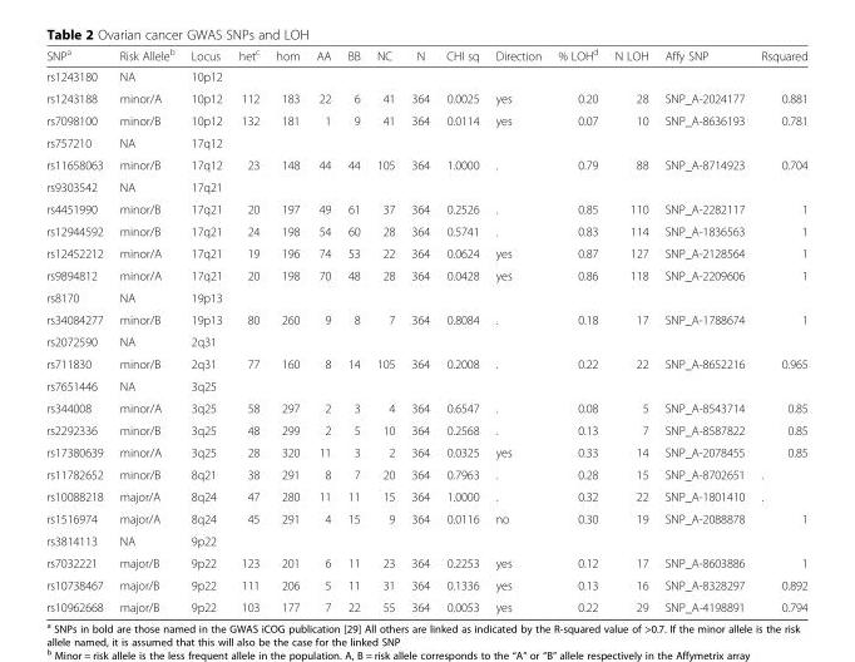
<table><thead><tr><td>SNP<sup>a</sup></td><td>Risk Allele<sup>b</sup></td><td>Locus</td><td>het<sup>c</sup></td><td>hom</td><td>AA</td><td>BB</td><td>NC</td><td>N</td><td>CHI sq</td><td>Direction</td><td>% LOH<sup>d</sup></td><td>N LOH</td><td>Affy SNP</td><td>Rsquared</td></tr></thead><tbody><tr><td>rs1243180</td><td>NA</td><td>10p12</td><td></td><td></td><td></td><td></td><td></td><td></td><td></td><td></td><td></td><td></td><td></td><td></td></tr><tr><td>rs1243188</td><td>minor/A</td><td>10p12</td><td>112</td><td>183</td><td>22</td><td>6</td><td>41</td><td>364</td><td>0.0025</td><td>yes</td><td>0.20</td><td>28</td><td>SNP_A-2024177</td><td>0.881</td></tr><tr><td>rs7098100</td><td>minor/B</td><td>10p12</td><td>132</td><td>181</td><td>1</td><td>9</td><td>41</td><td>364</td><td>0.0114</td><td>yes</td><td>0.07</td><td>10</td><td>SNP_A-8636193</td><td>0.781</td></tr><tr><td>rs757210</td><td>NA</td><td>17q12</td><td></td><td></td><td></td><td></td><td></td><td></td><td></td><td></td><td></td><td></td><td></td><td></td></tr><tr><td>rs11658063</td><td>minor/B</td><td>17q12</td><td>23</td><td>148</td><td>44</td><td>44</td><td>105</td><td>364</td><td>1.0000</td><td>.</td><td>0.79</td><td>88</td><td>SNP_A-8714923</td><td>0.704</td></tr><tr><td>rs9303542</td><td>NA</td><td>17q21</td><td></td><td></td><td></td><td></td><td></td><td></td><td></td><td></td><td></td><td></td><td></td><td></td></tr><tr><td>rs4451990</td><td>minor/B</td><td>17q21</td><td>20</td><td>197</td><td>49</td><td>61</td><td>37</td><td>364</td><td>0.2526</td><td>.</td><td>0.85</td><td>110</td><td>SNP_A-2282117</td><td>1</td></tr><tr><td>rs12944592</td><td>minor/B</td><td>17q21</td><td>24</td><td>198</td><td>54</td><td>60</td><td>28</td><td>364</td><td>0.5741</td><td>.</td><td>0.83</td><td>114</td><td>SNP_A-1836563</td><td>1</td></tr><tr><td>rs12452212</td><td>minor/A</td><td>17q21</td><td>19</td><td>196</td><td>74</td><td>53</td><td>22</td><td>364</td><td>0.0624</td><td>yes</td><td>0.87</td><td>127</td><td>SNP_A-2128564</td><td>1</td></tr><tr><td>rs9894812</td><td>minor/A</td><td>17q21</td><td>20</td><td>198</td><td>70</td><td>48</td><td>28</td><td>364</td><td>0.0428</td><td>yes</td><td>0.86</td><td>118</td><td>SNP_A-2209606</td><td>1</td></tr><tr><td>rs8170</td><td>NA</td><td>19p13</td><td></td><td></td><td></td><td></td><td></td><td></td><td></td><td></td><td></td><td></td><td></td><td></td></tr><tr><td>rs34084277</td><td>minor/B</td><td>19p13</td><td>80</td><td>260</td><td>9</td><td>8</td><td>7</td><td>364</td><td>0.8084</td><td>.</td><td>0.18</td><td>17</td><td>SNP_A-1788674</td><td>1</td></tr><tr><td>rs2072590</td><td>NA</td><td>2q31</td><td></td><td></td><td></td><td></td><td></td><td></td><td></td><td></td><td></td><td></td><td></td><td></td></tr><tr><td>rs711830</td><td>minor/B</td><td>2q31</td><td>77</td><td>160</td><td>8</td><td>14</td><td>105</td><td>364</td><td>0.2008</td><td>.</td><td>0.22</td><td>22</td><td>SNP_A-8652216</td><td>0.965</td></tr><tr><td>rs7651446</td><td>NA</td><td>3q25</td><td></td><td></td><td></td><td></td><td></td><td></td><td></td><td></td><td></td><td></td><td></td><td></td></tr><tr><td>rs344008</td><td>minor/A</td><td>3q25</td><td>58</td><td>297</td><td>2</td><td>3</td><td>4</td><td>364</td><td>0.6547</td><td>.</td><td>0.08</td><td>5</td><td>SNP_A-8543714</td><td>0.85</td></tr><tr><td>rs2292336</td><td>minor/B</td><td>3q25</td><td>48</td><td>299</td><td>2</td><td>5</td><td>10</td><td>364</td><td>0.2568</td><td>.</td><td>0.13</td><td>7</td><td>SNP_A-8587822</td><td>0.85</td></tr><tr><td>rs17380639</td><td>minor/A</td><td>3q25</td><td>28</td><td>320</td><td>11</td><td>3</td><td>2</td><td>364</td><td>0.0325</td><td>yes</td><td>0.33</td><td>14</td><td>SNP_A-2078455</td><td>0.85</td></tr><tr><td>rs11782652</td><td>minor/B</td><td>8q21</td><td>38</td><td>291</td><td>8</td><td>7</td><td>20</td><td>364</td><td>0.7963</td><td>.</td><td>0.28</td><td>15</td><td>SNP_A-8702651</td><td>.</td></tr><tr><td>rs10088218</td><td>major/A</td><td>8q24</td><td>47</td><td>280</td><td>11</td><td>11</td><td>15</td><td>364</td><td>1.0000</td><td>.</td><td>0.32</td><td>22</td><td>SNP_A-1801410</td><td>.</td></tr><tr><td>rs1516974</td><td>major/A</td><td>8q24</td><td>45</td><td>291</td><td>4</td><td>15</td><td>9</td><td>364</td><td>0.0116</td><td>no</td><td>0.30</td><td>19</td><td>SNP_A-2088878</td><td>1</td></tr><tr><td>rs3814113</td><td>NA</td><td>9p22</td><td></td><td></td><td></td><td></td><td></td><td></td><td></td><td></td><td></td><td></td><td></td><td></td></tr><tr><td>rs7032221</td><td>major/B</td><td>9p22</td><td>123</td><td>201</td><td>6</td><td>11</td><td>23</td><td>364</td><td>0.2253</td><td>yes</td><td>0.12</td><td>17</td><td>SNP_A-8603886</td><td>1</td></tr><tr><td>rs10738467</td><td>major/B</td><td>9p22</td><td>111</td><td>206</td><td>5</td><td>11</td><td>31</td><td>364</td><td>0.1336</td><td>yes</td><td>0.13</td><td>16</td><td>SNP_A-8328297</td><td>0.892</td></tr><tr><td>rs10962668</td><td>major/B</td><td>9p22</td><td>103</td><td>177</td><td>7</td><td>22</td><td>55</td><td>364</td><td>0.0053</td><td>yes</td><td>0.22</td><td>29</td><td>SNP_A-4198891</td><td>0.794</td></tr></tbody></table>